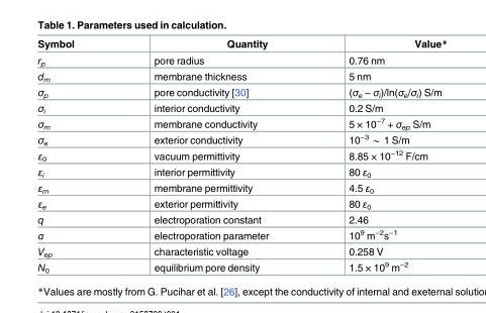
<table><thead><tr><td>Symbol</td><td>Quantity</td><td>Value*</td></tr></thead><tbody><tr><td>r<sub>p</sub></td><td>pore radius</td><td>0.76 nm</td></tr><tr><td>d<sub>m</sub></td><td>membrane thickness</td><td>5 nm</td></tr><tr><td>σ<sub>p</sub></td><td>pore conductivity [30]</td><td>(σ<sub>e</sub> − σ<sub>i</sub>)/ln(σ<sub>e</sub>/σ<sub>i</sub>) S/m</td></tr><tr><td>σ<sub>i</sub></td><td>interior conductivity</td><td>0.2 S/m</td></tr><tr><td>σ<sub>m</sub></td><td>membrane conductivity</td><td>5 × 10<sup>−7</sup> + σ<sub>ep</sub> S/m</td></tr><tr><td>σ<sub>e</sub></td><td>exterior conductivity</td><td>10−3 * 1 S/m</td></tr><tr><td>ε<sub>0</sub></td><td>vacuum permittivity</td><td>8.85 × 10<sup>−12</sup> F/cm</td></tr><tr><td>ε<sub>i</sub></td><td>interior permittivity</td><td>80 ε<sub>0</sub></td></tr><tr><td>ε<sub>m</sub></td><td>membrane permittivity</td><td>4.5 ε<sub>0</sub></td></tr><tr><td>ε<sub>e</sub></td><td>exterior permittivity</td><td>80 ε<sub>0</sub></td></tr><tr><td>q</td><td>electroporation constant</td><td>2.46</td></tr><tr><td>α</td><td>electroporation parameter</td><td>10<sup>9</sup> m<sup>−2</sup>s<sup>−1</sup></td></tr><tr><td>V<sub>ep</sub></td><td>characteristic voltage</td><td>0.258 V</td></tr><tr><td>N<sub>0</sub></td><td>equilibrium pore density</td><td>1.5 × 10<sup>9</sup> m<sup>−2</sup></td></tr></tbody></table>